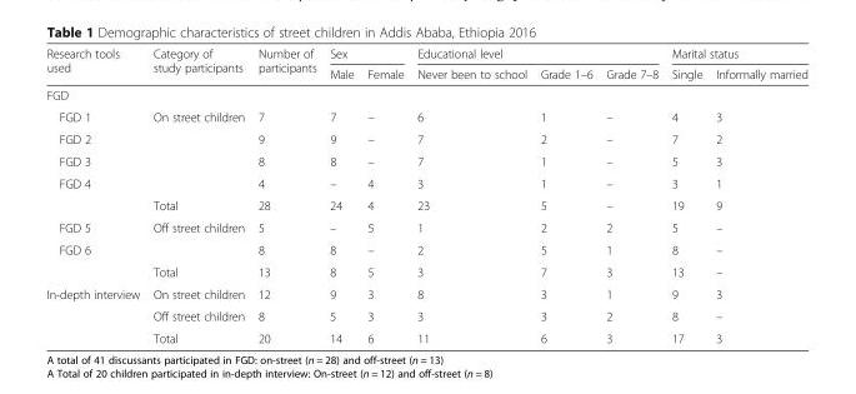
<table><thead><tr><td rowspan="2">Research tools used</td><td rowspan="2">Category of study participants</td><td rowspan="2">Number of participants</td><td colspan="2">Sex</td><td colspan="3">Educational level</td><td colspan="2">Marital status</td></tr><tr><td>Male</td><td>Female</td><td>Never been to school</td><td>Grade 1–6</td><td>Grade 7–8</td><td>Single</td><td>Informally married</td></tr></thead><tbody><tr><td colspan="10">FGD</td></tr><tr><td>FGD 1</td><td rowspan="4">On street children</td><td>7</td><td>7</td><td>–</td><td>6</td><td>1</td><td>–</td><td>4</td><td>3</td></tr><tr><td>FGD 2</td><td>9</td><td>9</td><td>–</td><td>7</td><td>2</td><td>–</td><td>7</td><td>2</td></tr><tr><td>FGD 3</td><td>8</td><td>8</td><td>–</td><td>7</td><td>1</td><td>–</td><td>5</td><td>3</td></tr><tr><td rowspan="2">FGD 4</td><td>4</td><td>–</td><td>4</td><td>3</td><td>1</td><td>–</td><td>3</td><td>1</td></tr><tr><td>Total</td><td>28</td><td>24</td><td>4</td><td>23</td><td>5</td><td>–</td><td>19</td><td>9</td></tr><tr><td>FGD 5</td><td rowspan="2">Off street children</td><td>5</td><td>–</td><td>5</td><td>1</td><td>2</td><td>2</td><td>5</td><td>–</td></tr><tr><td rowspan="2">FGD 6</td><td>8</td><td>8</td><td>–</td><td>2</td><td>5</td><td>1</td><td>8</td><td>–</td></tr><tr><td>Total</td><td>13</td><td>8</td><td>5</td><td>3</td><td>7</td><td>3</td><td>13</td><td>–</td></tr><tr><td rowspan="3">In-depth interview</td><td>On street children</td><td>12</td><td>9</td><td>3</td><td>8</td><td>3</td><td>1</td><td>9</td><td>3</td></tr><tr><td>Off street children</td><td>8</td><td>5</td><td>3</td><td>3</td><td>3</td><td>2</td><td>8</td><td>–</td></tr><tr><td>Total</td><td>20</td><td>14</td><td>6</td><td>11</td><td>6</td><td>3</td><td>17</td><td>3</td></tr></tbody></table>